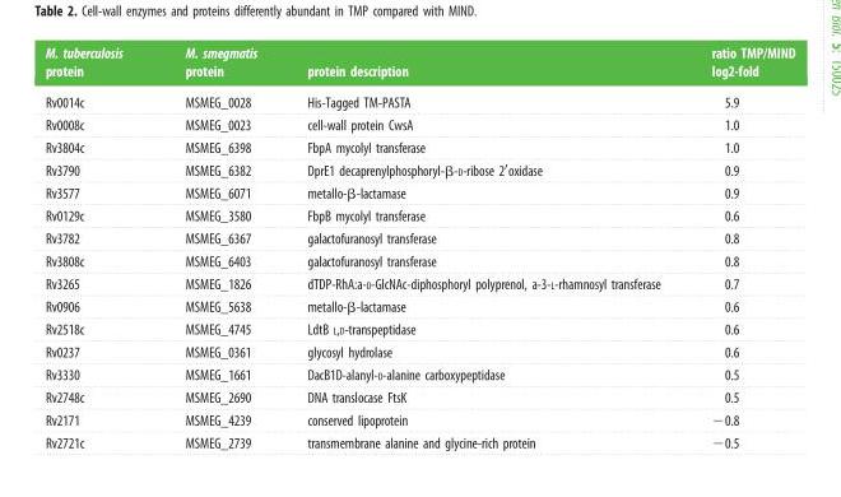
<table><thead><tr><td>M. tuberculosis protein</td><td>M. smegmatis protein</td><td>protein description</td><td>ratio TMP/MIND log2-fold</td></tr></thead><tbody><tr><td>Rv0014c</td><td>MSMEG_0028</td><td>His-Tagged TM-PASTA</td><td>5.9</td></tr><tr><td>Rv0008c</td><td>MSMEG_0023</td><td>cell-wall protein CwsA</td><td>1.0</td></tr><tr><td>Rv3804c</td><td>MSMEG_6398</td><td>FbpA mycolyl transferase</td><td>1.0</td></tr><tr><td>Rv3790</td><td>MSMEG_6382</td><td>DprE1 decaprenylphosphoryl-β-D-ribose 2′oxidase</td><td>0.9</td></tr><tr><td>Rv3577</td><td>MSMEG_6071</td><td>metallo-β-lactamase</td><td>0.9</td></tr><tr><td>Rv0129c</td><td>MSMEG_3580</td><td>FbpB mycolyl transferase</td><td>0.6</td></tr><tr><td>Rv3782</td><td>MSMEG_6367</td><td>galactofuranosyl transferase</td><td>0.8</td></tr><tr><td>Rv3808c</td><td>MSMEG_6403</td><td>galactofuranosyl transferase</td><td>0.8</td></tr><tr><td>Rv3265</td><td>MSMEG_1826</td><td>dTDP-RhA:a-D-GlcNAc-diphosphoryl polyprenol, a-3-L-rhamnosyl transferase</td><td>0.7</td></tr><tr><td>Rv0906</td><td>MSMEG_5638</td><td>metallo-β-lactamase</td><td>0.6</td></tr><tr><td>Rv2518c</td><td>MSMEG_4745</td><td>LdtB L,D-transpeptidase</td><td>0.6</td></tr><tr><td>Rv0237</td><td>MSMEG_0361</td><td>glycosyl hydrolase</td><td>0.6</td></tr><tr><td>Rv3330</td><td>MSMEG_1661</td><td>DacB1D-alanyl-D-alanine carboxypeptidase</td><td>0.5</td></tr><tr><td>Rv2748c</td><td>MSMEG_2690</td><td>DNA translocase FtsK</td><td>0.5</td></tr><tr><td>Rv2171</td><td>MSMEG_4239</td><td>conserved lipoprotein</td><td>−0.8</td></tr><tr><td>Rv2721c</td><td>MSMEG_2739</td><td>transmembrane alanine and glycine-rich protein</td><td>−0.5</td></tr></tbody></table>